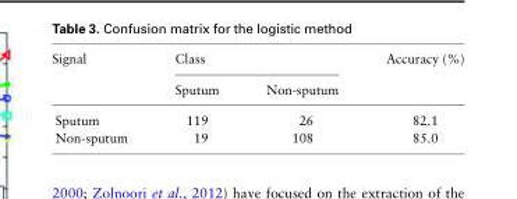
<table><thead><tr><td rowspan="2">Signal</td><td colspan="2">Class</td><td rowspan="2">Accuracy (%)</td></tr><tr><td>Sputum</td><td>Non-sputum</td></tr></thead><tbody><tr><td>Sputum</td><td>119</td><td>26</td><td>82.1</td></tr><tr><td>Non-sputum</td><td>19</td><td>108</td><td>85.0</td></tr></tbody></table>